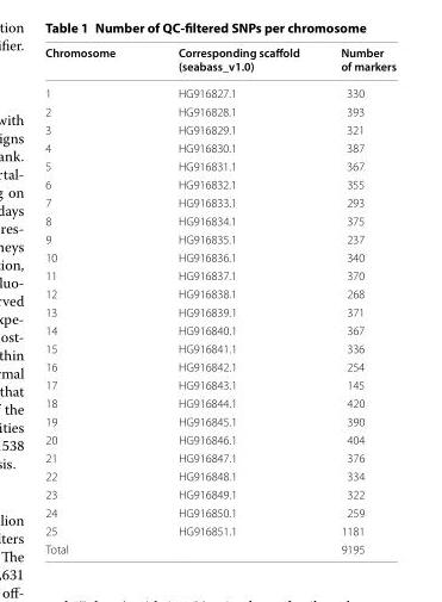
<table><thead><tr><td>Chromosome</td><td>Corresponding scaffold (seabass_v1.0)</td><td>Number of markers</td></tr></thead><tbody><tr><td>1</td><td>HG916827.1</td><td>330</td></tr><tr><td>2</td><td>HG916828.1</td><td>393</td></tr><tr><td>3</td><td>HG916829.1</td><td>321</td></tr><tr><td>4</td><td>HG916830.1</td><td>387</td></tr><tr><td>5</td><td>HG916831.1</td><td>367</td></tr><tr><td>6</td><td>HG916832.1</td><td>355</td></tr><tr><td>7</td><td>HG916833.1</td><td>293</td></tr><tr><td>8</td><td>HG916834.1</td><td>375</td></tr><tr><td>9</td><td>HG916835.1</td><td>237</td></tr><tr><td>10</td><td>HG916836.1</td><td>340</td></tr><tr><td>11</td><td>HG916837.1</td><td>370</td></tr><tr><td>12</td><td>HG916838.1</td><td>268</td></tr><tr><td>13</td><td>HG916839.1</td><td>371</td></tr><tr><td>14</td><td>HG916840.1</td><td>367</td></tr><tr><td>15</td><td>HG916841.1</td><td>336</td></tr><tr><td>16</td><td>HG916842.1</td><td>254</td></tr><tr><td>17</td><td>HG916843.1</td><td>145</td></tr><tr><td>18</td><td>HG916844.1</td><td>420</td></tr><tr><td>19</td><td>HG916845.1</td><td>390</td></tr><tr><td>20</td><td>HG916846.1</td><td>404</td></tr><tr><td>21</td><td>HG916847.1</td><td>376</td></tr><tr><td>22</td><td>HG916848.1</td><td>334</td></tr><tr><td>23</td><td>HG916849.1</td><td>322</td></tr><tr><td>24</td><td>HG916850.1</td><td>259</td></tr><tr><td>25</td><td>HG916851.1</td><td>1181</td></tr><tr><td>Total</td><td></td><td>9195</td></tr></tbody></table>